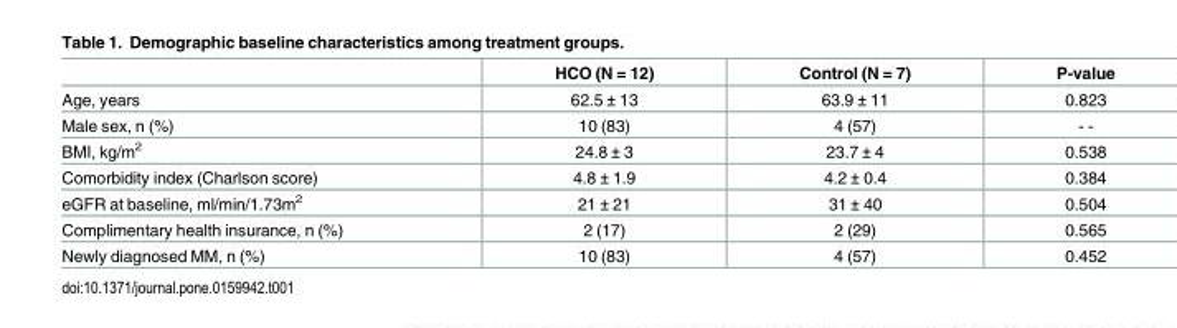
<table><thead><tr><td></td><td>HCO (N = 12)</td><td>Control (N = 7)</td><td>P-value</td></tr></thead><tbody><tr><td>Age, years</td><td>62.5 ± 13</td><td>63.9 ± 11</td><td>0.823</td></tr><tr><td>Male sex, n (%)</td><td>10 (83)</td><td>4 (57)</td><td>- -</td></tr><tr><td>BMI, kg/m<sup>2</sup></td><td>24.8 ± 3</td><td>23.7 ± 4</td><td>0.538</td></tr><tr><td>Comorbidity index (Charlson score)</td><td>4.8 ± 1.9</td><td>4.2 ± 0.4</td><td>0.384</td></tr><tr><td>eGFR at baseline, ml/min/1.73m<sup>2</sup></td><td>21 ± 21</td><td>31 ± 40</td><td>0.504</td></tr><tr><td>Complimentary health insurance, n (%)</td><td>2 (17)</td><td>2 (29)</td><td>0.565</td></tr><tr><td>Newly diagnosed MM, n (%)</td><td>10 (83)</td><td>4 (57)</td><td>0.452</td></tr></tbody></table>